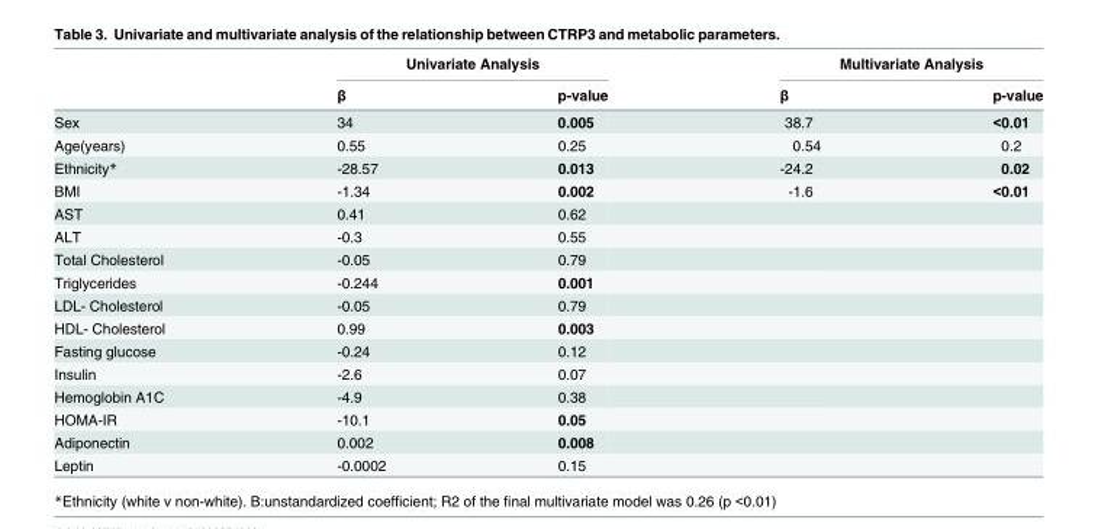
<table><thead><tr><td rowspan="2"></td><td colspan="2">Univariate Analysis</td><td colspan="2">Multivariate Analysis</td></tr><tr><td>β</td><td>p-value</td><td>β</td><td>p-value</td></tr></thead><tbody><tr><td>Sex</td><td>34</td><td>0.005</td><td>38.7</td><td>&lt;0.01</td></tr><tr><td>Age(years)</td><td>0.55</td><td>0.25</td><td>0.54</td><td>0.2</td></tr><tr><td>Ethnicity*</td><td>-28.57</td><td>0.013</td><td>-24.2</td><td>0.02</td></tr><tr><td>BMI</td><td>-1.34</td><td>0.002</td><td>-1.6</td><td>&lt;0.01</td></tr><tr><td>AST</td><td>0.41</td><td>0.62</td><td></td><td></td></tr><tr><td>ALT</td><td>-0.3</td><td>0.55</td><td></td><td></td></tr><tr><td>Total Cholesterol</td><td>-0.05</td><td>0.79</td><td></td><td></td></tr><tr><td>Triglycerides</td><td>-0.244</td><td>0.001</td><td></td><td></td></tr><tr><td>LDL- Cholesterol</td><td>-0.05</td><td>0.79</td><td></td><td></td></tr><tr><td>HDL- Cholesterol</td><td>0.99</td><td>0.003</td><td></td><td></td></tr><tr><td>Fasting glucose</td><td>-0.24</td><td>0.12</td><td></td><td></td></tr><tr><td>Insulin</td><td>-2.6</td><td>0.07</td><td></td><td></td></tr><tr><td>Hemoglobin A1C</td><td>-4.9</td><td>0.38</td><td></td><td></td></tr><tr><td>HOMA-IR</td><td>-10.1</td><td>0.05</td><td></td><td></td></tr><tr><td>Adiponectin</td><td>0.002</td><td>0.008</td><td></td><td></td></tr><tr><td>Leptin</td><td>-0.0002</td><td>0.15</td><td></td><td></td></tr></tbody></table>